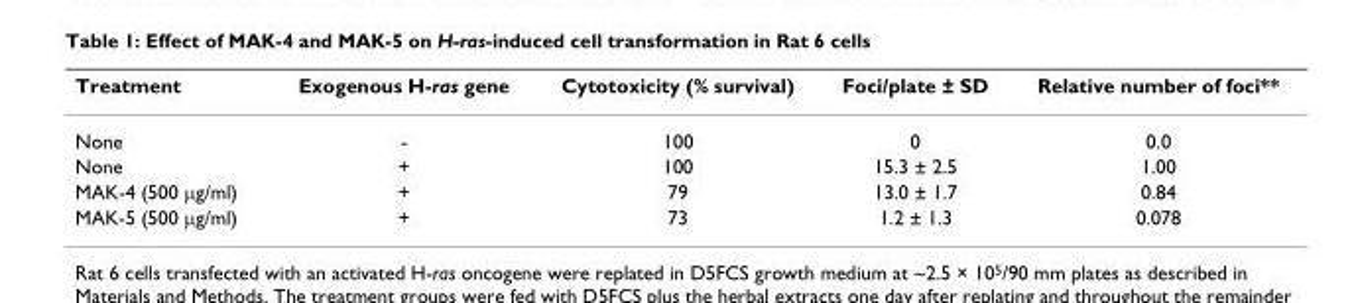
<table><thead><tr><td>Treatment</td><td>Exogenous H-ras gene</td><td>Cytotoxicity (% survival)</td><td>Foci/plate ± SD</td><td>Relative number of foci**</td></tr></thead><tbody><tr><td>None</td><td>-</td><td>100</td><td>0</td><td>0.0</td></tr><tr><td>None</td><td>+</td><td>100</td><td>15.3 ± 2.5</td><td>1.00</td></tr><tr><td>MAK-4 (500 µg/ml)</td><td>+</td><td>79</td><td>13.0 ± 1.7</td><td>0.84</td></tr><tr><td>MAK-5 (500 µg/ml)</td><td>+</td><td>73</td><td>1.2 ± 1.3</td><td>0.078</td></tr></tbody></table>